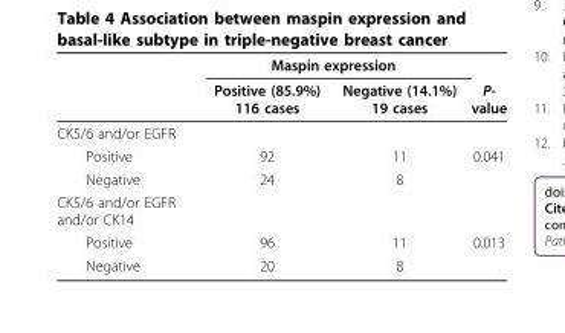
<table><thead><tr><td rowspan="2"></td><td colspan="2">Maspin expression</td><td rowspan="2">P- value</td></tr><tr><td>Positive (85.9%) 116 cases</td><td>Negative (14.1%) 19 cases</td></tr></thead><tbody><tr><td colspan="4">CK5/6 and/or EGFR</td></tr><tr><td>Positive</td><td>92</td><td>11</td><td>0.041</td></tr><tr><td>Negative</td><td>24</td><td>8</td><td></td></tr><tr><td colspan="4">CK5/6 and/or EGFR and/or CK14</td></tr><tr><td>Positive</td><td>96</td><td>11</td><td>0.013</td></tr><tr><td>Negative</td><td>20</td><td>8</td><td></td></tr></tbody></table>